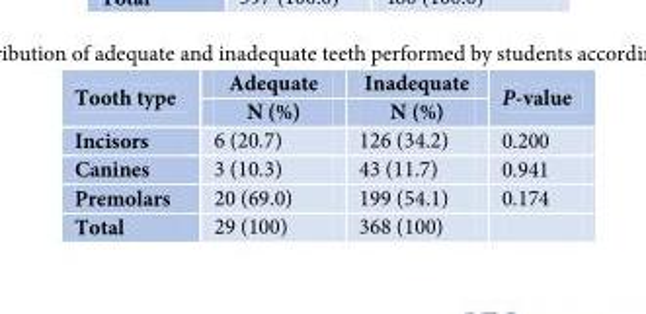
<table><thead><tr><td rowspan="2">Tooth type</td><td rowspan="2">Adequate N (%)</td><td rowspan="2">Inadequate N (%)</td><td rowspan="2">P-value</td></tr><tr></tr></thead><tbody><tr><td>Incisors</td><td>6 (20.7)</td><td>126 (34.2)</td><td>0.200</td></tr><tr><td>Canines</td><td>3 (10.3)</td><td>43 (11.7)</td><td>0.941</td></tr><tr><td>Premolars</td><td>20 (69.0)</td><td>199 (54.1)</td><td>0.174</td></tr><tr><td>Total</td><td>29 (100)</td><td>368 (100)</td><td></td></tr></tbody></table>